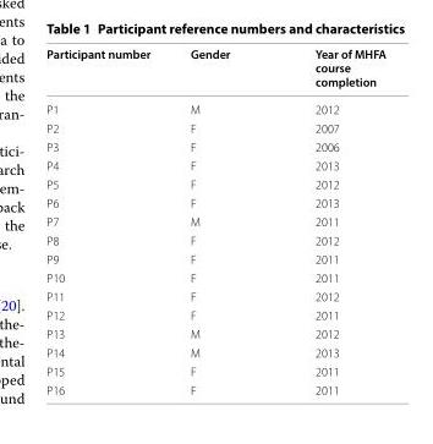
<table><thead><tr><td>Participant number</td><td>Gender</td><td>Year of MHFA course completion</td></tr></thead><tbody><tr><td>P1</td><td>M</td><td>2012</td></tr><tr><td>P2</td><td>F</td><td>2007</td></tr><tr><td>P3</td><td>F</td><td>2006</td></tr><tr><td>P4</td><td>F</td><td>2013</td></tr><tr><td>P5</td><td>F</td><td>2012</td></tr><tr><td>P6</td><td>F</td><td>2013</td></tr><tr><td>P7</td><td>M</td><td>2011</td></tr><tr><td>P8</td><td>F</td><td>2012</td></tr><tr><td>P9</td><td>F</td><td>2011</td></tr><tr><td>P10</td><td>F</td><td>2011</td></tr><tr><td>P11</td><td>F</td><td>2012</td></tr><tr><td>P12</td><td>F</td><td>2011</td></tr><tr><td>P13</td><td>M</td><td>2012</td></tr><tr><td>P14</td><td>M</td><td>2013</td></tr><tr><td>P15</td><td>F</td><td>2011</td></tr><tr><td>P16</td><td>F</td><td>2011</td></tr></tbody></table>